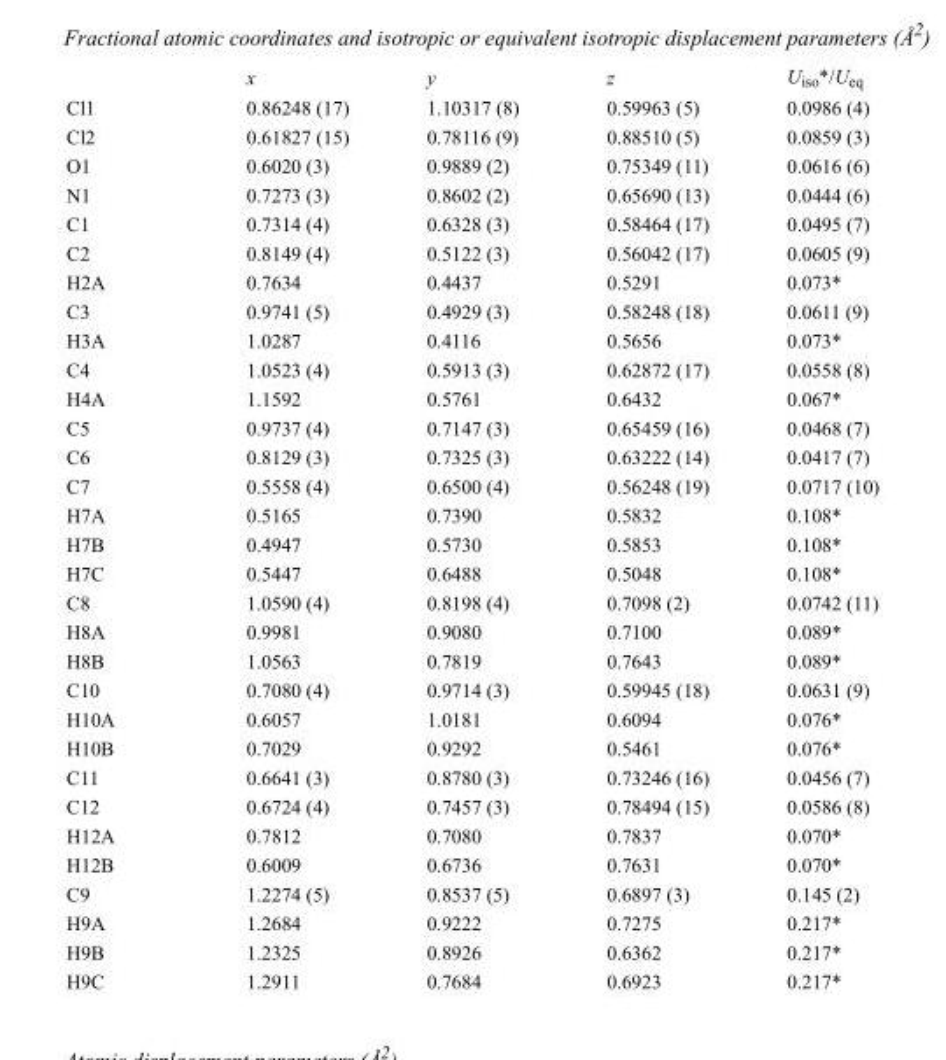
<table><thead><tr><td></td><td>x</td><td>y</td><td>z</td><td>U<sub>iso</sub>*/U<sub>eq</sub></td></tr></thead><tbody><tr><td>Cl1</td><td>0.86248 (17)</td><td>1.10317 (8)</td><td>0.59963 (5)</td><td>0.0986 (4)</td></tr><tr><td>Cl2</td><td>0.61827 (15)</td><td>0.78116 (9)</td><td>0.88510 (5)</td><td>0.0859 (3)</td></tr><tr><td>O1</td><td>0.6020 (3)</td><td>0.9889 (2)</td><td>0.75349 (11)</td><td>0.0616 (6)</td></tr><tr><td>N1</td><td>0.7273 (3)</td><td>0.8602 (2)</td><td>0.65690 (13)</td><td>0.0444 (6)</td></tr><tr><td>C1</td><td>0.7314 (4)</td><td>0.6328 (3)</td><td>0.58464 (17)</td><td>0.0495 (7)</td></tr><tr><td>C2</td><td>0.8149 (4)</td><td>0.5122 (3)</td><td>0.56042 (17)</td><td>0.0605 (9)</td></tr><tr><td>H2A</td><td>0.7634</td><td>0.4437</td><td>0.5291</td><td>0.073*</td></tr><tr><td>C3</td><td>0.9741 (5)</td><td>0.4929 (3)</td><td>0.58248 (18)</td><td>0.0611 (9)</td></tr><tr><td>H3A</td><td>1.0287</td><td>0.4116</td><td>0.5656</td><td>0.073*</td></tr><tr><td>C4</td><td>1.0523 (4)</td><td>0.5913 (3)</td><td>0.62872 (17)</td><td>0.0558 (8)</td></tr><tr><td>H4A</td><td>1.1592</td><td>0.5761</td><td>0.6432</td><td>0.067*</td></tr><tr><td>C5</td><td>0.9737 (4)</td><td>0.7147 (3)</td><td>0.65459 (16)</td><td>0.0468 (7)</td></tr><tr><td>C6</td><td>0.8129 (3)</td><td>0.7325 (3)</td><td>0.63222 (14)</td><td>0.0417 (7)</td></tr><tr><td>C7</td><td>0.5558 (4)</td><td>0.6500 (4)</td><td>0.56248 (19)</td><td>0.0717 (10)</td></tr><tr><td>H7A</td><td>0.5165</td><td>0.7390</td><td>0.5832</td><td>0.108*</td></tr><tr><td>H7B</td><td>0.4947</td><td>0.5730</td><td>0.5853</td><td>0.108*</td></tr><tr><td>H7C</td><td>0.5447</td><td>0.6488</td><td>0.5048</td><td>0.108*</td></tr><tr><td>C8</td><td>1.0590 (4)</td><td>0.8198 (4)</td><td>0.7098 (2)</td><td>0.0742 (11)</td></tr><tr><td>H8A</td><td>0.9981</td><td>0.9080</td><td>0.7100</td><td>0.089*</td></tr><tr><td>H8B</td><td>1.0563</td><td>0.7819</td><td>0.7643</td><td>0.089*</td></tr><tr><td>C10</td><td>0.7080 (4)</td><td>0.9714 (3)</td><td>0.59945 (18)</td><td>0.0631 (9)</td></tr><tr><td>H10A</td><td>0.6057</td><td>1.0181</td><td>0.6094</td><td>0.076*</td></tr><tr><td>H10B</td><td>0.7029</td><td>0.9292</td><td>0.5461</td><td>0.076*</td></tr><tr><td>C11</td><td>0.6641 (3)</td><td>0.8780 (3)</td><td>0.73246 (16)</td><td>0.0456 (7)</td></tr><tr><td>C12</td><td>0.6724 (4)</td><td>0.7457 (3)</td><td>0.78494 (15)</td><td>0.0586 (8)</td></tr><tr><td>H12A</td><td>0.7812</td><td>0.7080</td><td>0.7837</td><td>0.070*</td></tr><tr><td>H12B</td><td>0.6009</td><td>0.6736</td><td>0.7631</td><td>0.070*</td></tr><tr><td>C9</td><td>1.2274 (5)</td><td>0.8537 (5)</td><td>0.6897 (3)</td><td>0.145 (2)</td></tr><tr><td>H9A</td><td>1.2684</td><td>0.9222</td><td>0.7275</td><td>0.217*</td></tr><tr><td>H9B</td><td>1.2325</td><td>0.8926</td><td>0.6362</td><td>0.217*</td></tr><tr><td>H9C</td><td>1.2911</td><td>0.7684</td><td>0.6923</td><td>0.217*</td></tr></tbody></table>